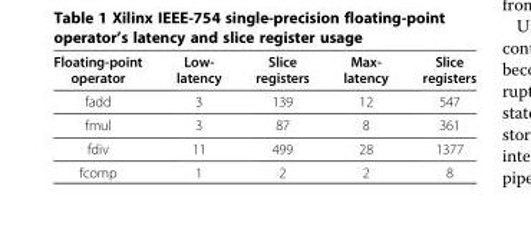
<table><thead><tr><td>Floating-point operator</td><td>Low- latency</td><td>Slice registers</td><td>Max- latency</td><td>Slice registers</td></tr></thead><tbody><tr><td>fadd</td><td>3</td><td>139</td><td>12</td><td>547</td></tr><tr><td>fmul</td><td>3</td><td>87</td><td>8</td><td>361</td></tr><tr><td>fdiv</td><td>11</td><td>499</td><td>28</td><td>1377</td></tr><tr><td>fcomp</td><td>1</td><td>2</td><td>2</td><td>8</td></tr></tbody></table>